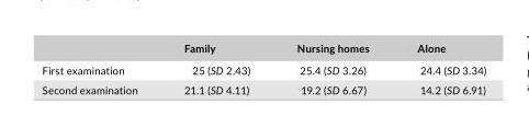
<table><thead><tr><td></td><td>Family</td><td>Nursing homes</td><td>Alone</td></tr></thead><tbody><tr><td>First examination</td><td>25 (SD 2.43)</td><td>25.4 (SD 3.26)</td><td>24.4 (SD 3.34)</td></tr><tr><td>Second examination</td><td>21.1 (SD 4.11)</td><td>19.2 (SD 6.67)</td><td>14.2 (SD 6.91)</td></tr></tbody></table>